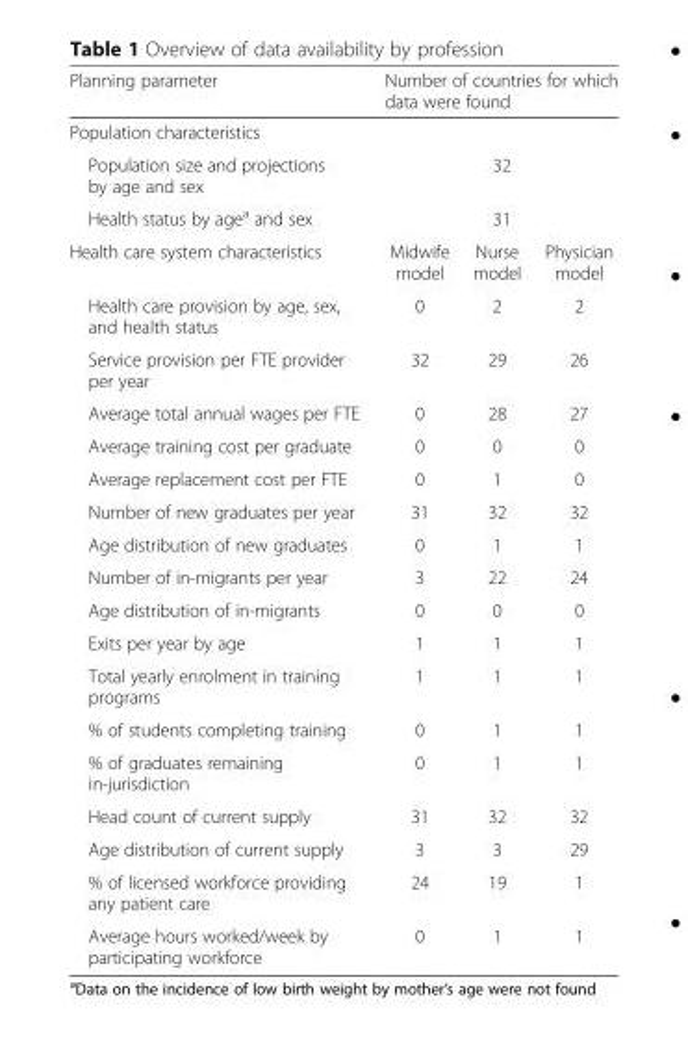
<table><thead><tr><td>Planning parameter</td><td colspan="3">Number of countries for which data were found</td></tr></thead><tbody><tr><td colspan="4">Population characteristics</td></tr><tr><td>Population size and projections by age and sex</td><td colspan="3">32</td></tr><tr><td>Health status by age<sup>a</sup> and sex</td><td colspan="3">31</td></tr><tr><td>Health care system characteristics</td><td>Midwife model</td><td>Nurse model</td><td>Physician model</td></tr><tr><td>Health care provision by age, sex, and health status</td><td>0</td><td>2</td><td>2</td></tr><tr><td>Service provision per FTE provider per year</td><td>32</td><td>29</td><td>26</td></tr><tr><td>Average total annual wages per FTE</td><td>0</td><td>28</td><td>27</td></tr><tr><td>Average training cost per graduate</td><td>0</td><td>0</td><td>0</td></tr><tr><td>Average replacement cost per FTE</td><td>0</td><td>1</td><td>0</td></tr><tr><td>Number of new graduates per year</td><td>31</td><td>32</td><td>32</td></tr><tr><td>Age distribution of new graduates</td><td>0</td><td>1</td><td>1</td></tr><tr><td>Number of in-migrants per year</td><td>3</td><td>22</td><td>24</td></tr><tr><td>Age distribution of in-migrants</td><td>0</td><td>0</td><td>0</td></tr><tr><td>Exits per year by age</td><td>1</td><td>1</td><td>1</td></tr><tr><td>Total yearly enrolment in training programs</td><td>1</td><td>1</td><td>1</td></tr><tr><td>% of students completing training</td><td>0</td><td>1</td><td>1</td></tr><tr><td>% of graduates remaining in-jurisdiction</td><td>0</td><td>1</td><td>1</td></tr><tr><td>Head count of current supply</td><td>31</td><td>32</td><td>32</td></tr><tr><td>Age distribution of current supply</td><td>3</td><td>3</td><td>29</td></tr><tr><td>% of licensed workforce providing any patient care</td><td>24</td><td>19</td><td>1</td></tr><tr><td>Average hours worked/week by participating workforce</td><td>0</td><td>1</td><td>1</td></tr></tbody></table>